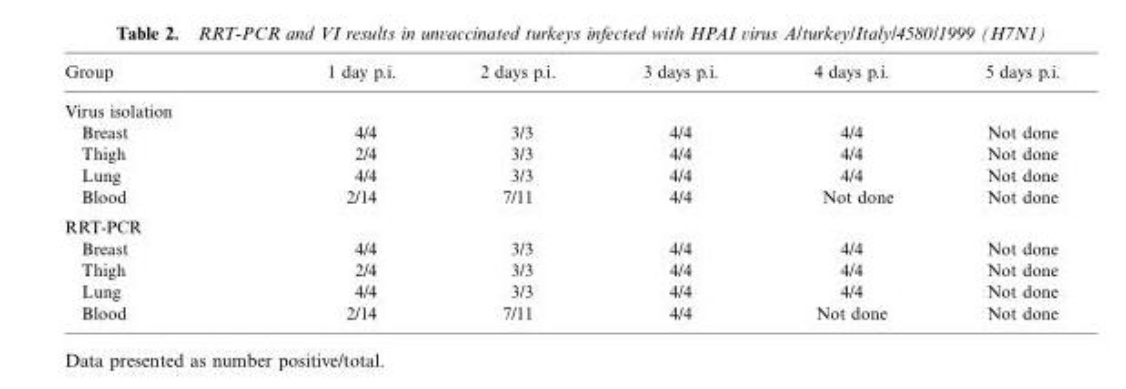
<table><thead><tr><td>Group</td><td>1 day p.i.</td><td>2 days p.i.</td><td>3 days p.i.</td><td>4 days p.i.</td><td>5 days p.i.</td></tr></thead><tbody><tr><td colspan="6">Virus isolation</td></tr><tr><td>Breast</td><td>4/4</td><td>3/3</td><td>4/4</td><td>4/4</td><td>Not done</td></tr><tr><td>Thigh</td><td>2/4</td><td>3/3</td><td>4/4</td><td>4/4</td><td>Not done</td></tr><tr><td>Lung</td><td>4/4</td><td>3/3</td><td>4/4</td><td>4/4</td><td>Not done</td></tr><tr><td>Blood</td><td>2/14</td><td>7/11</td><td>4/4</td><td>Not done</td><td>Not done</td></tr><tr><td colspan="6">RRT-PCR</td></tr><tr><td>Breast</td><td>4/4</td><td>3/3</td><td>4/4</td><td>4/4</td><td>Not done</td></tr><tr><td>Thigh</td><td>2/4</td><td>3/3</td><td>4/4</td><td>4/4</td><td>Not done</td></tr><tr><td>Lung</td><td>4/4</td><td>3/3</td><td>4/4</td><td>4/4</td><td>Not done</td></tr><tr><td>Blood</td><td>2/14</td><td>7/11</td><td>4/4</td><td>Not done</td><td>Not done</td></tr></tbody></table>